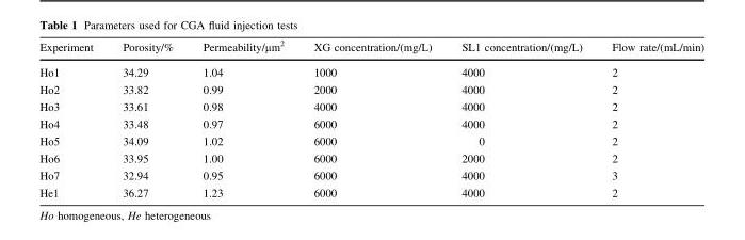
<table><thead><tr><td>Experiment</td><td>Porosity/%</td><td>Permeability/μm<sup>2</sup></td><td>XG concentration/(mg/L)</td><td>SL1 concentration/(mg/L)</td><td>Flow rate/(mL/min)</td></tr></thead><tbody><tr><td>Ho1</td><td>34.29</td><td>1.04</td><td>1000</td><td>4000</td><td>2</td></tr><tr><td>Ho2</td><td>33.82</td><td>0.99</td><td>2000</td><td>4000</td><td>2</td></tr><tr><td>Ho3</td><td>33.61</td><td>0.98</td><td>4000</td><td>4000</td><td>2</td></tr><tr><td>Ho4</td><td>33.48</td><td>0.97</td><td>6000</td><td>4000</td><td>2</td></tr><tr><td>Ho5</td><td>34.09</td><td>1.02</td><td>6000</td><td>0</td><td>2</td></tr><tr><td>Ho6</td><td>33.95</td><td>1.00</td><td>6000</td><td>2000</td><td>2</td></tr><tr><td>Ho7</td><td>32.94</td><td>0.95</td><td>6000</td><td>4000</td><td>3</td></tr><tr><td>He1</td><td>36.27</td><td>1.23</td><td>6000</td><td>4000</td><td>2</td></tr></tbody></table>